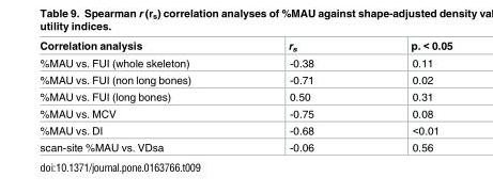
<table><thead><tr><td>Correlation analysis</td><td>r<sub>s</sub></td><td>p. &lt; 0.05</td></tr></thead><tbody><tr><td>%MAU vs. FUI (whole skeleton)</td><td>-0.38</td><td>0.11</td></tr><tr><td>%MAU vs. FUI (non long bones)</td><td>-0.71</td><td>0.02</td></tr><tr><td>%MAU vs. FUI (long bones)</td><td>0.50</td><td>0.31</td></tr><tr><td>%MAU vs. MCV</td><td>-0.75</td><td>0.08</td></tr><tr><td>%MAU vs. DI</td><td>-0.68</td><td>&lt;0.01</td></tr><tr><td>scan-site %MAU vs. VDsa</td><td>-0.06</td><td>0.56</td></tr></tbody></table>